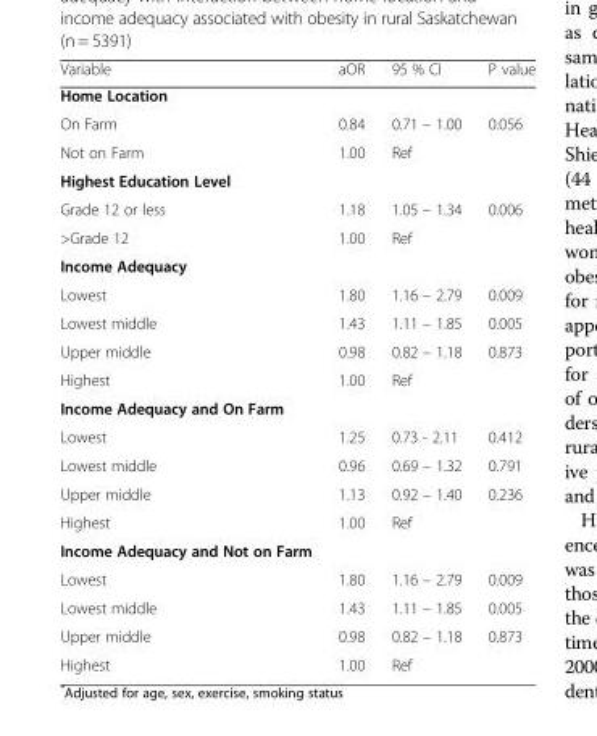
<table><thead><tr><td>Variable</td><td>aOR</td><td>95 % CI</td><td>P value</td></tr></thead><tbody><tr><td colspan="4">Home Location</td></tr><tr><td>On Farm</td><td>0.84</td><td>0.71 – 1.00</td><td>0.056</td></tr><tr><td>Not on Farm</td><td>1.00</td><td>Ref</td><td></td></tr><tr><td colspan="4">Highest Education Level</td></tr><tr><td>Grade 12 or less</td><td>1.18</td><td>1.05 – 1.34</td><td>0.006</td></tr><tr><td>&gt;Grade 12</td><td>1.00</td><td>Ref</td><td></td></tr><tr><td colspan="4">Income Adequacy</td></tr><tr><td>Lowest</td><td>1.80</td><td>1.16 – 2.79</td><td>0.009</td></tr><tr><td>Lowest middle</td><td>1.43</td><td>1.11 – 1.85</td><td>0.005</td></tr><tr><td>Upper middle</td><td>0.98</td><td>0.82 – 1.18</td><td>0.873</td></tr><tr><td>Highest</td><td>1.00</td><td>Ref</td><td></td></tr><tr><td colspan="4">Income Adequacy and On Farm</td></tr><tr><td>Lowest</td><td>1.25</td><td>0.73 - 2.11</td><td>0.412</td></tr><tr><td>Lowest middle</td><td>0.96</td><td>0.69 – 1.32</td><td>0.791</td></tr><tr><td>Upper middle</td><td>1.13</td><td>0.92 – 1.40</td><td>0.236</td></tr><tr><td>Highest</td><td>1.00</td><td>Ref</td><td></td></tr><tr><td colspan="4">Income Adequacy and Not on Farm</td></tr><tr><td>Lowest</td><td>1.80</td><td>1.16 – 2.79</td><td>0.009</td></tr><tr><td>Lowest middle</td><td>1.43</td><td>1.11 – 1.85</td><td>0.005</td></tr><tr><td>Upper middle</td><td>0.98</td><td>0.82 – 1.18</td><td>0.873</td></tr><tr><td>Highest</td><td>1.00</td><td>Ref</td><td></td></tr></tbody></table>